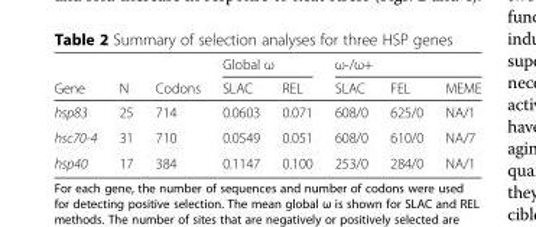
<table><thead><tr><td rowspan="2">Gene</td><td rowspan="2">N</td><td rowspan="2">Codons</td><td colspan="2">Global ω</td><td colspan="3">ω-/ω+</td></tr><tr><td>SLAC</td><td>REL</td><td>SLAC</td><td>FEL</td><td>MEME</td></tr></thead><tbody><tr><td>hsp83</td><td>25</td><td>714</td><td>0.0603</td><td>0.071</td><td>608/0</td><td>625/0</td><td>NA/1</td></tr><tr><td>hsc70-4</td><td>31</td><td>710</td><td>0.0549</td><td>0.051</td><td>608/0</td><td>610/0</td><td>NA/7</td></tr><tr><td>hsp40</td><td>17</td><td>384</td><td>0.1147</td><td>0.100</td><td>253/0</td><td>284/0</td><td>NA/1</td></tr></tbody></table>